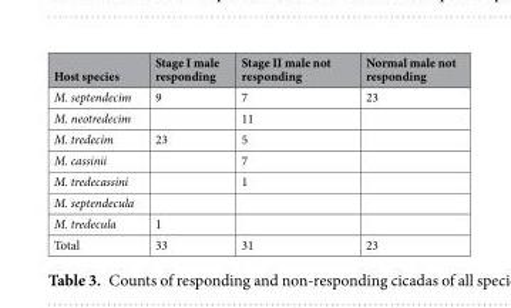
<table><thead><tr><td>Host species</td><td>Stage I male responding</td><td>Stage II male not responding</td><td>Normal male not responding</td></tr></thead><tbody><tr><td>M. septendecim</td><td>9</td><td>7</td><td>23</td></tr><tr><td>M. neotredecim</td><td></td><td>11</td><td></td></tr><tr><td>M. tredecim</td><td>23</td><td>5</td><td></td></tr><tr><td>M. cassinii</td><td></td><td>7</td><td></td></tr><tr><td>M. tredecassini</td><td></td><td>1</td><td></td></tr><tr><td colspan="4">M. septendecula</td></tr><tr><td>M. tredecula</td><td>1</td><td></td><td></td></tr><tr><td>Total</td><td>33</td><td>31</td><td>23</td></tr></tbody></table>